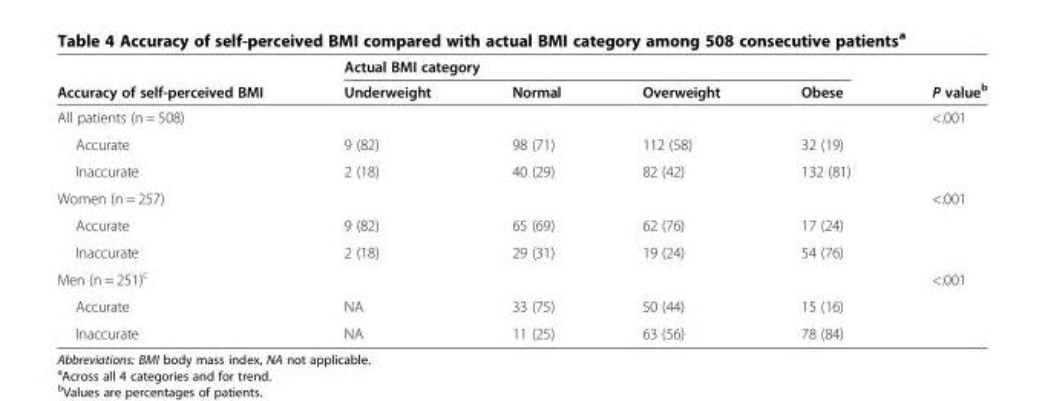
<table><thead><tr><td rowspan="2">Accuracy of self-perceived BMI</td><td colspan="4">Actual BMI category</td><td rowspan="2">P value<sup>b</sup></td></tr><tr><td>Underweight</td><td>Normal</td><td>Overweight</td><td>Obese</td></tr></thead><tbody><tr><td>All patients (n = 508)</td><td></td><td></td><td></td><td></td><td>&lt;.001</td></tr><tr><td>Accurate</td><td>9 (82)</td><td>98 (71)</td><td>112 (58)</td><td>32 (19)</td><td></td></tr><tr><td>Inaccurate</td><td>2 (18)</td><td>40 (29)</td><td>82 (42)</td><td>132 (81)</td><td></td></tr><tr><td>Women (n = 257)</td><td></td><td></td><td></td><td></td><td>&lt;.001</td></tr><tr><td>Accurate</td><td>9 (82)</td><td>65 (69)</td><td>62 (76)</td><td>17 (24)</td><td></td></tr><tr><td>Inaccurate</td><td>2 (18)</td><td>29 (31)</td><td>19 (24)</td><td>54 (76)</td><td></td></tr><tr><td>Men (n = 251)<sup>c</sup></td><td></td><td></td><td></td><td></td><td>&lt;.001</td></tr><tr><td>Accurate</td><td>NA</td><td>33 (75)</td><td>50 (44)</td><td>15 (16)</td><td></td></tr><tr><td>Inaccurate</td><td>NA</td><td>11 (25)</td><td>63 (56)</td><td>78 (84)</td><td></td></tr></tbody></table>